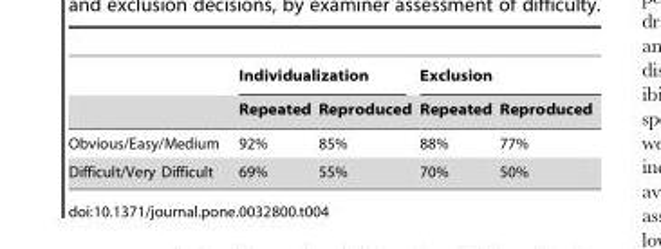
<table><thead><tr><td rowspan="2"></td><td colspan="2">Individualization</td><td colspan="2">Exclusion</td></tr><tr><td>Repeated</td><td>Reproduced</td><td>Repeated</td><td>Reproduced</td></tr></thead><tbody><tr><td>Obvious/Easy/Medium</td><td>92%</td><td>85%</td><td>88%</td><td>77%</td></tr><tr><td>Difficult/Very Difficult</td><td>69%</td><td>55%</td><td>70%</td><td>50%</td></tr></tbody></table>